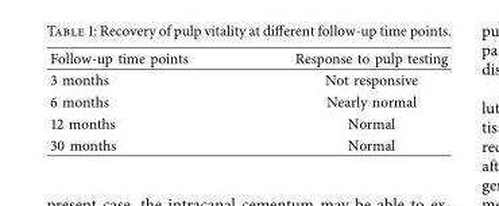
<table><thead><tr><td>Follow-up time points</td><td>Response to pulp testing</td></tr></thead><tbody><tr><td>3 months</td><td>Not responsive</td></tr><tr><td>6 months</td><td>Nearly normal</td></tr><tr><td>12 months</td><td>Normal</td></tr><tr><td>30 months</td><td>Normal</td></tr></tbody></table>